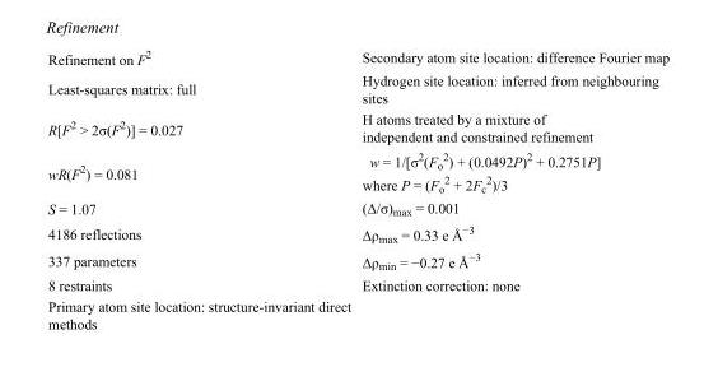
<table><tbody><tr><td>Refinement on F<sup>2</sup></td><td>Secondary atom site location: difference Fourier map</td></tr><tr><td>Least-squares matrix: full</td><td>Hydrogen site location: inferred from neighbouring sites</td></tr><tr><td>R[F<sup>2</sup> &gt; 2σ(F<sup>2</sup>)] = 0.027</td><td>H atoms treated by a mixture of independent and constrained refinement</td></tr><tr><td>wR(F<sup>2</sup>) = 0.081</td><td>w = 1/[σ<sup>2</sup>(F<sub>o</sub> <sup>2</sup>) + (0.0492P)<sup>2</sup> + 0.2751P] where P = (F<sub>o</sub> <sup>2</sup> + 2F<sub>c</sub> <sup>2</sup>)/3</td></tr><tr><td>S = 1.07</td><td>(Δ/σ)<sub>max</sub> = 0.001</td></tr><tr><td>4186 reflections</td><td>Δρ<sub>max</sub> = 0.33 e Å<sup>−3</sup></td></tr><tr><td>337 parameters</td><td>Δρ<sub>min</sub> = −0.27 e Å<sup>−3</sup></td></tr><tr><td>8 restraints</td><td>Extinction correction: none</td></tr><tr><td>Primary atom site location: structure-invariant direct methods</td><td></td></tr></tbody></table>